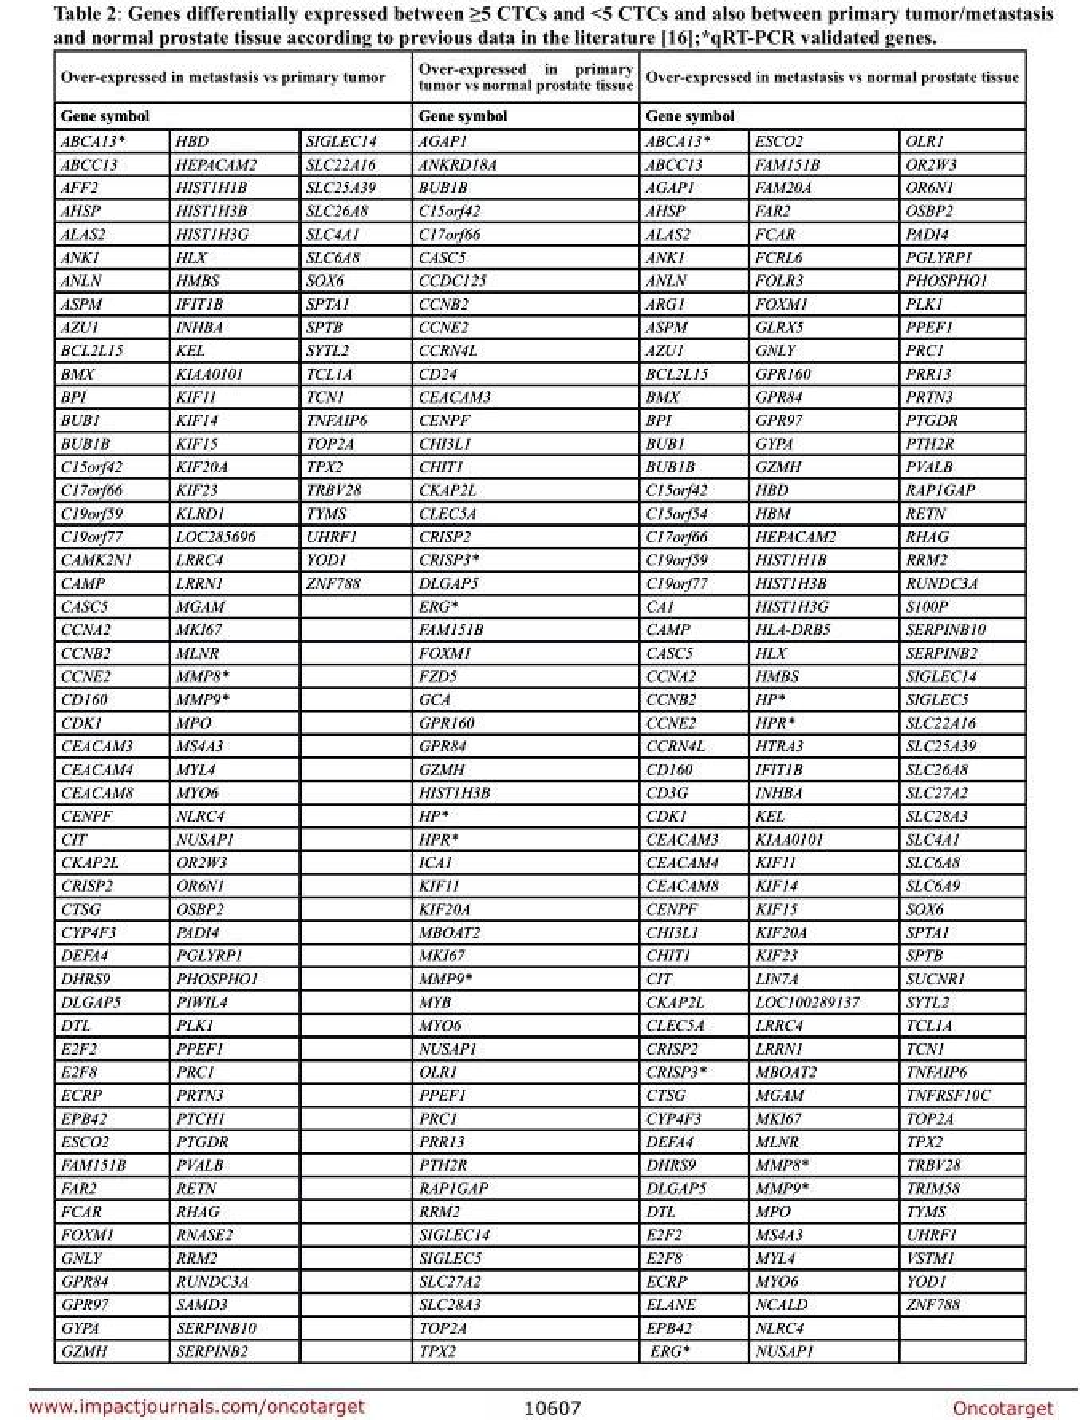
<table><thead><tr><td rowspan="2" colspan="3">Over-expressed in metastasis vs primary tumor Gene symbol</td><td rowspan="3">Over-expressed in primary tumor vs normal prostate tissue Gene symbol AGAP1</td><td rowspan="2" colspan="3">Over-expressed in metastasis vs normal prostate tissue Gene symbol</td></tr><tr></tr><tr><td>ABCA13*</td><td>HBD</td><td>SIGLEC14</td><td>ABCA13*</td><td>ESCO2</td><td>OLR1</td></tr></thead><tbody><tr><td>ABCC13</td><td>HEPACAM2</td><td>SLC22A16</td><td>ANKRD18A</td><td>ABCC13</td><td>FAM151B</td><td>OR2W3</td></tr><tr><td>AFF2</td><td>HIST1H1B</td><td>SLC25A39</td><td>BUB1B</td><td>AGAP1</td><td>FAM20A</td><td>OR6N1</td></tr><tr><td>AHSP</td><td>HIST1H3B</td><td>SLC26A8</td><td>C15orf42</td><td>AHSP</td><td>FAR2</td><td>OSBP2</td></tr><tr><td>ALAS2</td><td>HIST1H3G</td><td>SLC4A1</td><td>C17orf66</td><td>ALAS2</td><td>FCAR</td><td>PADI4</td></tr><tr><td>ANK1</td><td>HLX</td><td>SLC6A8</td><td>CASC5</td><td>ANK1</td><td>FCRL6</td><td>PGLYRP1</td></tr><tr><td>ANLN</td><td>HMBS</td><td>SOX6</td><td>CCDC125</td><td>ANLN</td><td>FOLR3</td><td>PHOSPHO1</td></tr><tr><td>ASPM</td><td>IFIT1B</td><td>SPTA1</td><td>CCNB2</td><td>ARG1</td><td>FOXM1</td><td>PLK1</td></tr><tr><td>AZU1</td><td>INHBA</td><td>SPTB</td><td>CCNE2</td><td>ASPM</td><td>GLRX5</td><td>PPEF1</td></tr><tr><td>BCL2L15</td><td>KEL</td><td>SYTL2</td><td>CCRN4L</td><td>AZU1</td><td>GNLY</td><td>PRC1</td></tr><tr><td>BMX</td><td>KIAA0101</td><td>TCL1A</td><td>CD24</td><td>BCL2L15</td><td>GPR160</td><td>PRR13</td></tr><tr><td>BPI</td><td>KIF11</td><td>TCN1</td><td>CEACAM3</td><td>BMX</td><td>GPR84</td><td>PRTN3</td></tr><tr><td>BUB1</td><td>KIF14</td><td>TNFAIP6</td><td>CENPF</td><td>BPI</td><td>GPR97</td><td>PTGDR</td></tr><tr><td>BUB1B</td><td>KIF15</td><td>TOP2A</td><td>CHI3L1</td><td>BUB1</td><td>GYPA</td><td>PTH2R</td></tr><tr><td>C15orf42</td><td>KIF20A</td><td>TPX2</td><td>CHIT1</td><td>BUB1B</td><td>GZMH</td><td>PVALB</td></tr><tr><td>C17orf66</td><td>KIF23</td><td>TRBV28</td><td>CKAP2L</td><td>C15orf42</td><td>HBD</td><td>RAP1GAP</td></tr><tr><td>C19orf59</td><td>KLRD1</td><td>TYMS</td><td>CLEC5A</td><td>C15orf54</td><td>HBM</td><td>RETN</td></tr><tr><td>C19orf77</td><td>LOC285696</td><td>UHRF1</td><td>CRISP2</td><td>C17orf66</td><td>HEPACAM2</td><td>RHAG</td></tr><tr><td>CAMK2N1</td><td>LRRC4</td><td>YOD1</td><td>CRISP3*</td><td>C19orf59</td><td>HIST1H1B</td><td>RRM2</td></tr><tr><td>CAMP</td><td>LRRN1</td><td>ZNF788</td><td>DLGAP5</td><td>C19orf77</td><td>HIST1H3B</td><td>RUNDC3A</td></tr><tr><td>CASC5</td><td>MGAM</td><td></td><td>ERG*</td><td>CA1</td><td>HIST1H3G</td><td>S100P</td></tr><tr><td>CCNA2</td><td>MKI67</td><td></td><td>FAM151B</td><td>CAMP</td><td>HLA-DRB5</td><td>SERPINB10</td></tr><tr><td>CCNB2</td><td>MLNR</td><td></td><td>FOXM1</td><td>CASC5</td><td>HLX</td><td>SERPINB2</td></tr><tr><td>CCNE2</td><td>MMP8*</td><td></td><td>FZD5</td><td>CCNA2</td><td>HMBS</td><td>SIGLEC14</td></tr><tr><td>CD160</td><td>MMP9*</td><td></td><td>GCA</td><td>CCNB2</td><td>HP*</td><td>SIGLEC5</td></tr><tr><td>CDK1</td><td>MPO</td><td></td><td>GPR160</td><td>CCNE2</td><td>HPR*</td><td>SLC22A16</td></tr><tr><td>CEACAM3</td><td>MS4A3</td><td></td><td>GPR84</td><td>CCRN4L</td><td>HTRA3</td><td>SLC25A39</td></tr><tr><td>CEACAM4</td><td>MYL4</td><td></td><td>GZMH</td><td>CD160</td><td>IFIT1B</td><td>SLC26A8</td></tr><tr><td>CEACAM8</td><td>MYO6</td><td></td><td>HIST1H3B</td><td>CD3G</td><td>INHBA</td><td>SLC27A2</td></tr><tr><td>CENPF</td><td>NLRC4</td><td></td><td>HP*</td><td>CDK1</td><td>KEL</td><td>SLC28A3</td></tr><tr><td>CIT</td><td>NUSAP1</td><td></td><td>HPR*</td><td>CEACAM3</td><td>KIAA0101</td><td>SLC4A1</td></tr><tr><td>CKAP2L</td><td>OR2W3</td><td></td><td>ICA1</td><td>CEACAM4</td><td>KIF11</td><td>SLC6A8</td></tr><tr><td>CRISP2</td><td>OR6N1</td><td></td><td>KIF11</td><td>CEACAM8</td><td>KIF14</td><td>SLC6A9</td></tr><tr><td>CTSG</td><td>OSBP2</td><td></td><td>KIF20A</td><td>CENPF</td><td>KIF15</td><td>SOX6</td></tr><tr><td>CYP4F3</td><td>PADI4</td><td></td><td>MBOAT2</td><td>CHI3L1</td><td>KIF20A</td><td>SPTA1</td></tr><tr><td>DEFA4</td><td>PGLYRP1</td><td></td><td>MKI67</td><td>CHIT1</td><td>KIF23</td><td>SPTB</td></tr><tr><td>DHRS9</td><td>PHOSPHO1</td><td></td><td>MMP9*</td><td>CIT</td><td>LIN7A</td><td>SUCNR1</td></tr><tr><td>DLGAP5</td><td>PIWIL4</td><td></td><td>MYB</td><td>CKAP2L</td><td>LOC100289137</td><td>SYTL2</td></tr><tr><td>DTL</td><td>PLK1</td><td></td><td>MYO6</td><td>CLEC5A</td><td>LRRC4</td><td>TCL1A</td></tr><tr><td>E2F2</td><td>PPEF1</td><td></td><td>NUSAP1</td><td>CRISP2</td><td>LRRN1</td><td>TCN1</td></tr><tr><td>E2F8</td><td>PRC1</td><td></td><td>OLR1</td><td>CRISP3*</td><td>MBOAT2</td><td>TNFAIP6</td></tr><tr><td>ECRP</td><td>PRTN3</td><td></td><td>PPEF1</td><td>CTSG</td><td>MGAM</td><td>TNFRSF10C</td></tr><tr><td>EPB42</td><td>PTCH1</td><td></td><td>PRC1</td><td>CYP4F3</td><td>MKI67</td><td>TOP2A</td></tr><tr><td>ESCO2</td><td>PTGDR</td><td></td><td>PRR13</td><td>DEFA4</td><td>MLNR</td><td>TPX2</td></tr><tr><td>FAM151B</td><td>PVALB</td><td></td><td>PTH2R</td><td>DHRS9</td><td>MMP8*</td><td>TRBV28</td></tr><tr><td>FAR2</td><td>RETN</td><td></td><td>RAP1GAP</td><td>DLGAP5</td><td>MMP9*</td><td>TRIM58</td></tr><tr><td>FCAR</td><td>RHAG</td><td></td><td>RRM2</td><td>DTL</td><td>MPO</td><td>TYMS</td></tr><tr><td>FOXM1</td><td>RNASE2</td><td></td><td>SIGLEC14</td><td>E2F2</td><td>MS4A3</td><td>UHRF1</td></tr><tr><td>GNLY</td><td>RRM2</td><td></td><td>SIGLEC5</td><td>E2F8</td><td>MYL4</td><td>VSTM1</td></tr><tr><td>GPR84</td><td>RUNDC3A</td><td></td><td>SLC27A2</td><td>ECRP</td><td>MYO6</td><td>YOD1</td></tr><tr><td>GPR97</td><td>SAMD3</td><td></td><td>SLC28A3</td><td>ELANE</td><td>NCALD</td><td>ZNF788</td></tr><tr><td>GYPA</td><td>SERPINB10</td><td></td><td>TOP2A</td><td>EPB42</td><td>NLRC4</td><td></td></tr><tr><td>GZMH</td><td>SERPINB2</td><td></td><td>TPX2</td><td>ERG*</td><td>NUSAP1</td><td></td></tr></tbody></table>